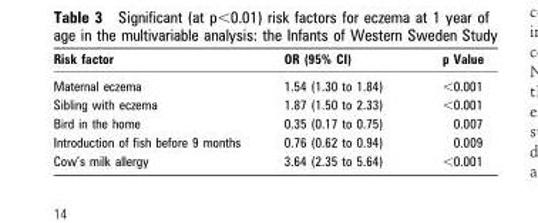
<table><thead><tr><td>Risk factor</td><td>OR (95% CI)</td><td>p Value</td></tr></thead><tbody><tr><td>Maternal eczema</td><td>1.54 (1.30 to 1.84)</td><td>&lt;0.001</td></tr><tr><td>Sibling with eczema</td><td>1.87 (1.50 to 2.33)</td><td>&lt;0.001</td></tr><tr><td>Bird in the home</td><td>0.35 (0.17 to 0.75)</td><td>0.007</td></tr><tr><td>Introduction of fish before 9 months</td><td>0.76 (0.62 to 0.94)</td><td>0.009</td></tr><tr><td>Cow’s milk allergy</td><td>3.64 (2.35 to 5.64)</td><td>&lt;0.001</td></tr></tbody></table>